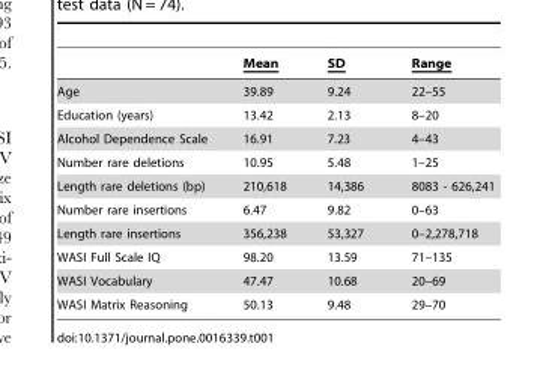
<table><thead><tr><td></td><td>Mean</td><td>SD</td><td>Range</td></tr></thead><tbody><tr><td>Age</td><td>39.89</td><td>9.24</td><td>22–55</td></tr><tr><td>Education (years)</td><td>13.42</td><td>2.13</td><td>8–20</td></tr><tr><td>Alcohol Dependence Scale</td><td>16.91</td><td>7.23</td><td>4–43</td></tr><tr><td>Number rare deletions</td><td>10.95</td><td>5.48</td><td>1–25</td></tr><tr><td>Length rare deletions (bp)</td><td>210,618</td><td>14,386</td><td>8083 - 626,241</td></tr><tr><td>Number rare insertions</td><td>6.47</td><td>9.82</td><td>0–63</td></tr><tr><td>Length rare insertions</td><td>356,238</td><td>53,327</td><td>0–2,278,718</td></tr><tr><td>WASI Full Scale IQ</td><td>98.20</td><td>13.59</td><td>71–135</td></tr><tr><td>WASI Vocabulary</td><td>47.47</td><td>10.68</td><td>20–69</td></tr><tr><td>WASI Matrix Reasoning</td><td>50.13</td><td>9.48</td><td>29–70</td></tr></tbody></table>